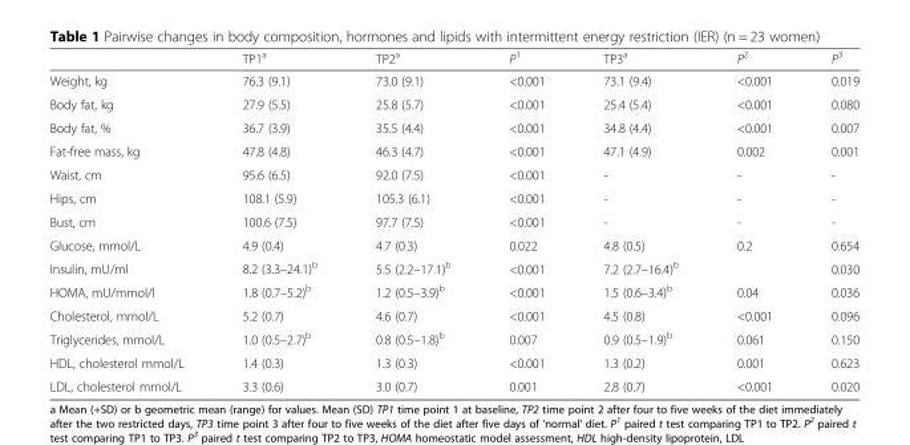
<table><thead><tr><td></td><td>TP1<sup>a</sup></td><td>TP2<sup>a</sup></td><td>P<sup>1</sup></td><td>TP3<sup>a</sup></td><td>P<sup>2</sup></td><td>P<sup>3</sup></td></tr></thead><tbody><tr><td>Weight, kg</td><td>76.3 (9.1)</td><td>73.0 (9.1)</td><td>&lt;0.001</td><td>73.1 (9.4)</td><td>&lt;0.001</td><td>0.019</td></tr><tr><td>Body fat, kg</td><td>27.9 (5.5)</td><td>25.8 (5.7)</td><td>&lt;0.001</td><td>25.4 (5.4)</td><td>&lt;0.001</td><td>0.080</td></tr><tr><td>Body fat, %</td><td>36.7 (3.9)</td><td>35.5 (4.4)</td><td>&lt;0.001</td><td>34.8 (4.4)</td><td>&lt;0.001</td><td>0.007</td></tr><tr><td>Fat-free mass, kg</td><td>47.8 (4.8)</td><td>46.3 (4.7)</td><td>&lt;0.001</td><td>47.1 (4.9)</td><td>0.002</td><td>0.001</td></tr><tr><td>Waist, cm</td><td>95.6 (6.5)</td><td>92.0 (7.5)</td><td>&lt;0.001</td><td>-</td><td>-</td><td>-</td></tr><tr><td>Hips, cm</td><td>108.1 (5.9)</td><td>105.3 (6.1)</td><td>&lt;0.001</td><td>-</td><td>-</td><td>-</td></tr><tr><td>Bust, cm</td><td>100.6 (7.5)</td><td>97.7 (7.5)</td><td>&lt;0.001</td><td>-</td><td>-</td><td>-</td></tr><tr><td>Glucose, mmol/L</td><td>4.9 (0.4)</td><td>4.7 (0.3)</td><td>0.022</td><td>4.8 (0.5)</td><td>0.2</td><td>0.654</td></tr><tr><td>Insulin, mU/ml</td><td>8.2 (3.3–24.1)<sup>b</sup></td><td>5.5 (2.2–17.1)<sup>b</sup></td><td>&lt;0.001</td><td>7.2 (2.7–16.4)<sup>b</sup></td><td></td><td>0.030</td></tr><tr><td>HOMA, mU/mmol/l</td><td>1.8 (0.7–5.2)<sup>b</sup></td><td>1.2 (0.5–3.9)<sup>b</sup></td><td>&lt;0.001</td><td>1.5 (0.6–3.4)<sup>b</sup></td><td>0.04</td><td>0.036</td></tr><tr><td>Cholesterol, mmol/L</td><td>5.2 (0.7)</td><td>4.6 (0.7)</td><td>&lt;0.001</td><td>4.5 (0.8)</td><td>&lt;0.001</td><td>0.096</td></tr><tr><td>Triglycerides, mmol/L</td><td>1.0 (0.5–2.7)<sup>b</sup></td><td>0.8 (0.5–1.8)<sup>b</sup></td><td>0.007</td><td>0.9 (0.5–1.9)<sup>b</sup></td><td>0.061</td><td>0.150</td></tr><tr><td>HDL, cholesterol mmol/L</td><td>1.4 (0.3)</td><td>1.3 (0.3)</td><td>&lt;0.001</td><td>1.3 (0.2)</td><td>0.001</td><td>0.623</td></tr><tr><td>LDL, cholesterol mmol/L</td><td>3.3 (0.6)</td><td>3.0 (0.7)</td><td>0.001</td><td>2.8 (0.7)</td><td>&lt;0.001</td><td>0.020</td></tr></tbody></table>